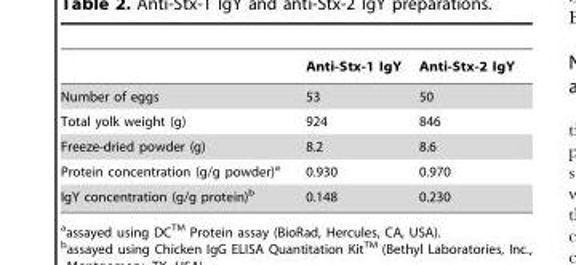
<table><thead><tr><td></td><td>Anti-Stx-1 IgY</td><td>Anti-Stx-2 IgY</td></tr></thead><tbody><tr><td>Number of eggs</td><td>53</td><td>50</td></tr><tr><td>Total yolk weight (g)</td><td>924</td><td>846</td></tr><tr><td>Freeze-dried powder (g)</td><td>8.2</td><td>8.6</td></tr><tr><td>Protein concentration (g/g powder)<sup>a</sup></td><td>0.930</td><td>0.970</td></tr><tr><td>IgY concentration (g/g protein)<sup>b</sup></td><td>0.148</td><td>0.230</td></tr></tbody></table>